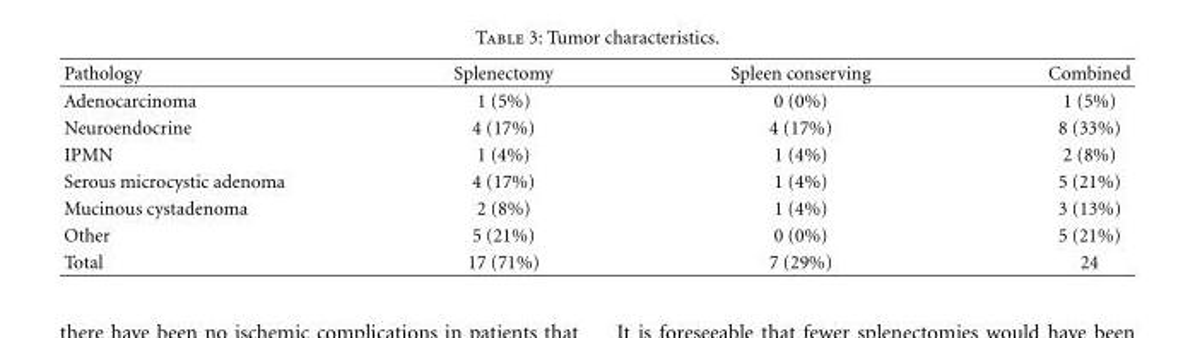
<table><thead><tr><td>Pathology</td><td>Splenectomy</td><td>Spleen conserving</td><td>Combined</td></tr></thead><tbody><tr><td>Adenocarcinoma</td><td>1 (5%)</td><td>0 (0%)</td><td>1 (5%)</td></tr><tr><td>Neuroendocrine</td><td>4 (17%)</td><td>4 (17%)</td><td>8 (33%)</td></tr><tr><td>IPMN</td><td>1 (4%)</td><td>1 (4%)</td><td>2 (8%)</td></tr><tr><td>Serous microcystic adenoma</td><td>4 (17%)</td><td>1 (4%)</td><td>5 (21%)</td></tr><tr><td>Mucinous cystadenoma</td><td>2 (8%)</td><td>1 (4%)</td><td>3 (13%)</td></tr><tr><td>Other</td><td>5 (21%)</td><td>0 (0%)</td><td>5 (21%)</td></tr><tr><td>Total</td><td>17 (71%)</td><td>7 (29%)</td><td>24</td></tr></tbody></table>